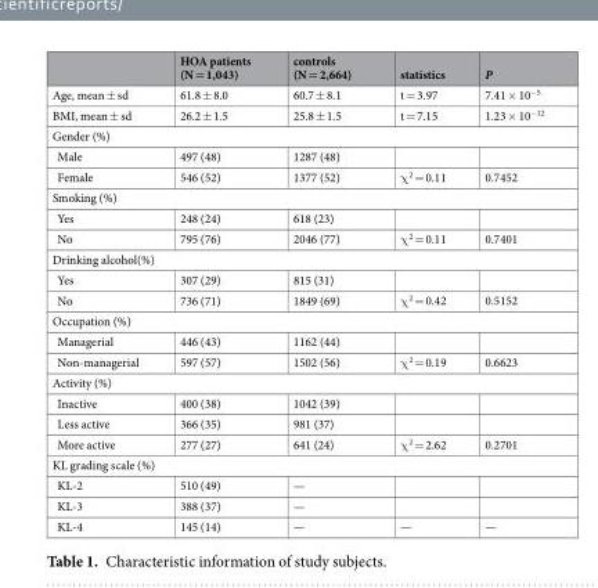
<table><thead><tr><td></td><td>HOA patients (N = 1,043)</td><td>controls (N = 2,664)</td><td>statistics</td><td>P</td></tr></thead><tbody><tr><td>Age, mean ± sd</td><td>61.8 ± 8.0</td><td>60.7 ± 8.1</td><td>t = 3.97</td><td>7.41 × 10<sup>−5</sup></td></tr><tr><td>BMI, mean ± sd</td><td>26.2 ± 1.5</td><td>25.8 ± 1.5</td><td>t = 7.15</td><td>1.23 × 10<sup>−12</sup></td></tr><tr><td colspan="5">Gender (%)</td></tr><tr><td>Male</td><td>497 (48)</td><td>1287 (48)</td><td></td><td></td></tr><tr><td>Female</td><td>546 (52)</td><td>1377 (52)</td><td>χ<sup>2</sup> = 0.11</td><td>0.7452</td></tr><tr><td colspan="5">Smoking (%)</td></tr><tr><td>Yes</td><td>248 (24)</td><td>618 (23)</td><td></td><td></td></tr><tr><td>No</td><td>795 (76)</td><td>2046 (77)</td><td>χ<sup>2</sup> = 0.11</td><td>0.7401</td></tr><tr><td colspan="5">Drinking alcohol(%)</td></tr><tr><td>Yes</td><td>307 (29)</td><td>815 (31)</td><td></td><td></td></tr><tr><td>No</td><td>736 (71)</td><td>1849 (69)</td><td>χ<sup>2</sup> = 0.42</td><td>0.5152</td></tr><tr><td colspan="5">Occupation (%)</td></tr><tr><td>Managerial</td><td>446 (43)</td><td>1162 (44)</td><td></td><td></td></tr><tr><td>Non-managerial</td><td>597 (57)</td><td>1502 (56)</td><td>χ<sup>2</sup> = 0.19</td><td>0.6623</td></tr><tr><td colspan="5">Activity (%)</td></tr><tr><td>Inactive</td><td>400 (38)</td><td>1042 (39)</td><td></td><td></td></tr><tr><td>Less active</td><td>366 (35)</td><td>981 (37)</td><td></td><td></td></tr><tr><td>More active</td><td>277 (27)</td><td>641 (24)</td><td>χ<sup>2</sup> = 2.62</td><td>0.2701</td></tr><tr><td colspan="5">KL grading scale (%)</td></tr><tr><td>KL-2</td><td>510 (49)</td><td>—</td><td></td><td></td></tr><tr><td>KL-3</td><td>388 (37)</td><td>—</td><td></td><td></td></tr><tr><td>KL-4</td><td>145 (14)</td><td>—</td><td>—</td><td>—</td></tr></tbody></table>